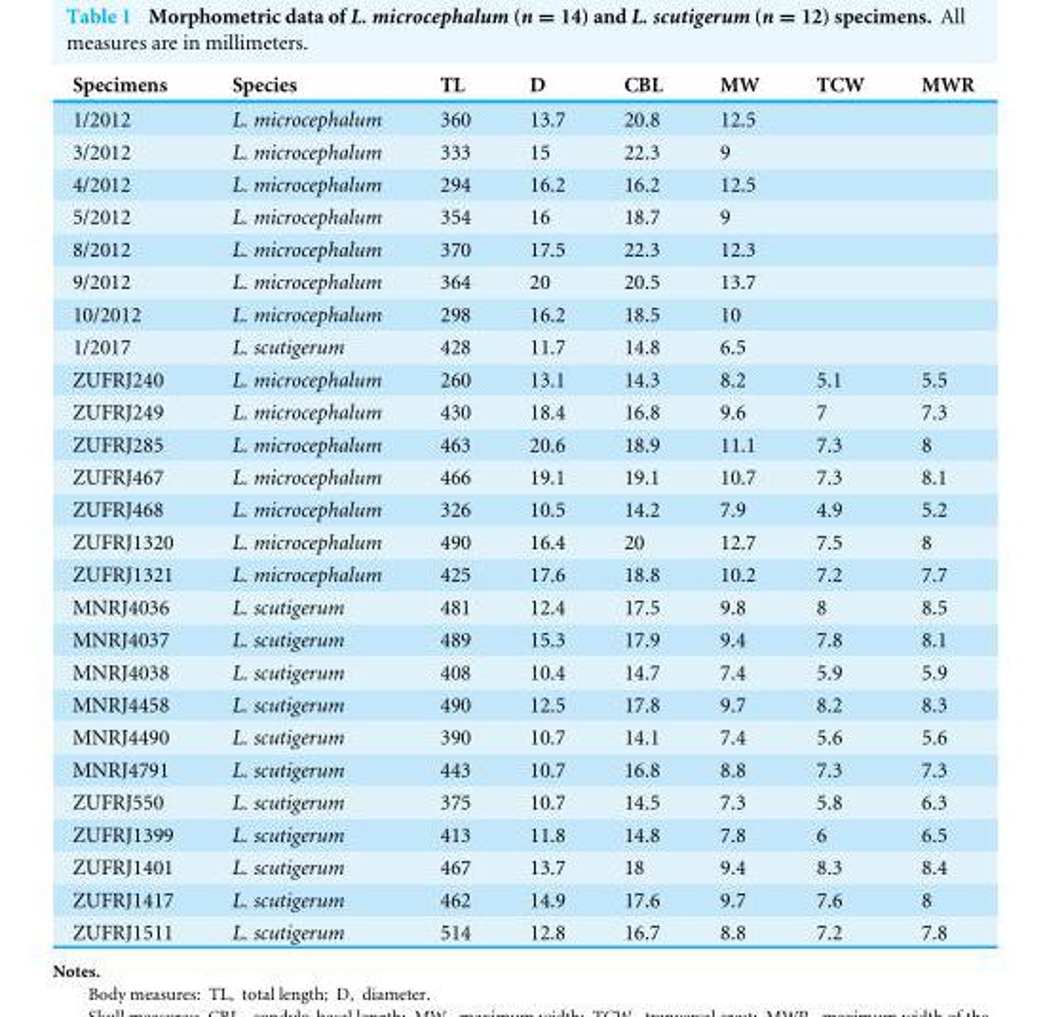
<table><thead><tr><td>Specimens</td><td>Species</td><td>TL</td><td>D</td><td>CBL</td><td>MW</td><td>TCW</td><td>MWR</td></tr></thead><tbody><tr><td>1/2012</td><td>L. microcephalum</td><td>360</td><td>13.7</td><td>20.8</td><td>12.5</td><td></td><td></td></tr><tr><td>3/2012</td><td>L. microcephalum</td><td>333</td><td>15</td><td>22.3</td><td>9</td><td></td><td></td></tr><tr><td>4/2012</td><td>L. microcephalum</td><td>294</td><td>16.2</td><td>16.2</td><td>12.5</td><td></td><td></td></tr><tr><td>5/2012</td><td>L. microcephalum</td><td>354</td><td>16</td><td>18.7</td><td>9</td><td></td><td></td></tr><tr><td>8/2012</td><td>L. microcephalum</td><td>370</td><td>17.5</td><td>22.3</td><td>12.3</td><td></td><td></td></tr><tr><td>9/2012</td><td>L. microcephalum</td><td>364</td><td>20</td><td>20.5</td><td>13.7</td><td></td><td></td></tr><tr><td>10/2012</td><td>L. microcephalum</td><td>298</td><td>16.2</td><td>18.5</td><td>10</td><td></td><td></td></tr><tr><td>1/2017</td><td>L. scutigerum</td><td>428</td><td>11.7</td><td>14.8</td><td>6.5</td><td></td><td></td></tr><tr><td>ZUFRJ240</td><td>L. microcephalum</td><td>260</td><td>13.1</td><td>14.3</td><td>8.2</td><td>5.1</td><td>5.5</td></tr><tr><td>ZUFRJ249</td><td>L. microcephalum</td><td>430</td><td>18.4</td><td>16.8</td><td>9.6</td><td>7</td><td>7.3</td></tr><tr><td>ZUFRJ285</td><td>L. microcephalum</td><td>463</td><td>20.6</td><td>18.9</td><td>11.1</td><td>7.3</td><td>8</td></tr><tr><td>ZUFRJ467</td><td>L. microcephalum</td><td>466</td><td>19.1</td><td>19.1</td><td>10.7</td><td>7.3</td><td>8.1</td></tr><tr><td>ZUFRJ468</td><td>L. microcephalum</td><td>326</td><td>10.5</td><td>14.2</td><td>7.9</td><td>4.9</td><td>5.2</td></tr><tr><td>ZUFRJ1320</td><td>L. microcephalum</td><td>490</td><td>16.4</td><td>20</td><td>12.7</td><td>7.5</td><td>8</td></tr><tr><td>ZUFRJ1321</td><td>L. microcephalum</td><td>425</td><td>17.6</td><td>18.8</td><td>10.2</td><td>7.2</td><td>7.7</td></tr><tr><td>MNRJ4036</td><td>L. scutigerum</td><td>481</td><td>12.4</td><td>17.5</td><td>9.8</td><td>8</td><td>8.5</td></tr><tr><td>MNRJ4037</td><td>L. scutigerum</td><td>489</td><td>15.3</td><td>17.9</td><td>9.4</td><td>7.8</td><td>8.1</td></tr><tr><td>MNRJ4038</td><td>L. scutigerum</td><td>408</td><td>10.4</td><td>14.7</td><td>7.4</td><td>5.9</td><td>5.9</td></tr><tr><td>MNRJ4458</td><td>L. scutigerum</td><td>490</td><td>12.5</td><td>17.8</td><td>9.7</td><td>8.2</td><td>8.3</td></tr><tr><td>MNRJ4490</td><td>L. scutigerum</td><td>390</td><td>10.7</td><td>14.1</td><td>7.4</td><td>5.6</td><td>5.6</td></tr><tr><td>MNRJ4791</td><td>L. scutigerum</td><td>443</td><td>10.7</td><td>16.8</td><td>8.8</td><td>7.3</td><td>7.3</td></tr><tr><td>ZUFRJ550</td><td>L. scutigerum</td><td>375</td><td>10.7</td><td>14.5</td><td>7.3</td><td>5.8</td><td>6.3</td></tr><tr><td>ZUFRJ1399</td><td>L. scutigerum</td><td>413</td><td>11.8</td><td>14.8</td><td>7.8</td><td>6</td><td>6.5</td></tr><tr><td>ZUFRJ1401</td><td>L. scutigerum</td><td>467</td><td>13.7</td><td>18</td><td>9.4</td><td>8.3</td><td>8.4</td></tr><tr><td>ZUFRJ1417</td><td>L. scutigerum</td><td>462</td><td>14.9</td><td>17.6</td><td>9.7</td><td>7.6</td><td>8</td></tr><tr><td>ZUFRJ1511</td><td>L. scutigerum</td><td>514</td><td>12.8</td><td>16.7</td><td>8.8</td><td>7.2</td><td>7.8</td></tr></tbody></table>